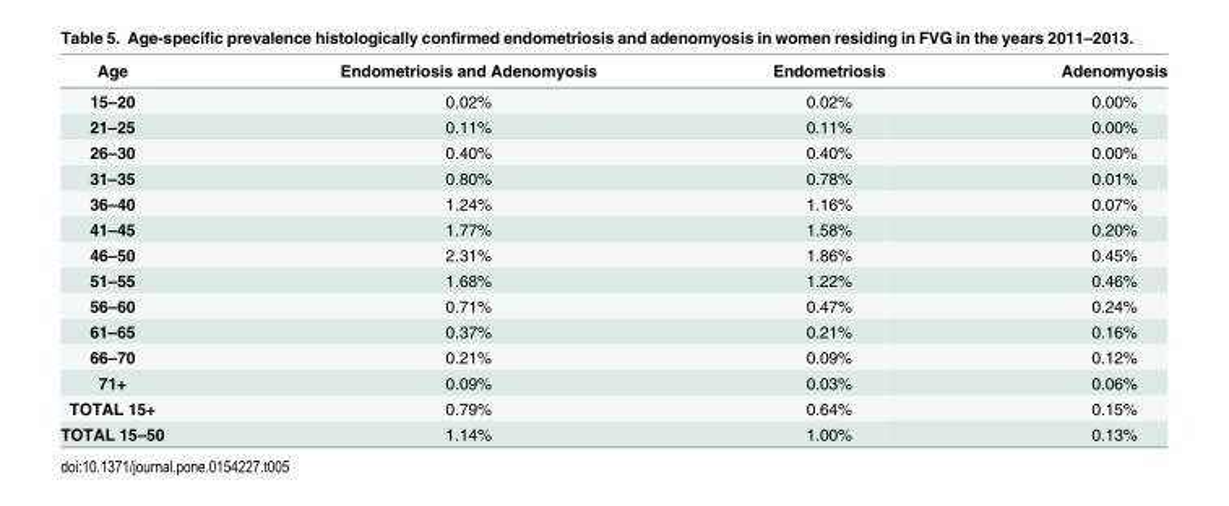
<table><thead><tr><td>Age</td><td>Endometriosis and Adenomyosis</td><td>Endometriosis</td><td>Adenomyosis</td></tr></thead><tbody><tr><td>15–20</td><td>0.02%</td><td>0.02%</td><td>0.00%</td></tr><tr><td>21–25</td><td>0.11%</td><td>0.11%</td><td>0.00%</td></tr><tr><td>26–30</td><td>0.40%</td><td>0.40%</td><td>0.00%</td></tr><tr><td>31–35</td><td>0.80%</td><td>0.78%</td><td>0.01%</td></tr><tr><td>36–40</td><td>1.24%</td><td>1.16%</td><td>0.07%</td></tr><tr><td>41–45</td><td>1.77%</td><td>1.58%</td><td>0.20%</td></tr><tr><td>46–50</td><td>2.31%</td><td>1.86%</td><td>0.45%</td></tr><tr><td>51–55</td><td>1.68%</td><td>1.22%</td><td>0.46%</td></tr><tr><td>56–60</td><td>0.71%</td><td>0.47%</td><td>0.24%</td></tr><tr><td>61–65</td><td>0.37%</td><td>0.21%</td><td>0.16%</td></tr><tr><td>66–70</td><td>0.21%</td><td>0.09%</td><td>0.12%</td></tr><tr><td>71+</td><td>0.09%</td><td>0.03%</td><td>0.06%</td></tr><tr><td>TOTAL 15+</td><td>0.79%</td><td>0.64%</td><td>0.15%</td></tr><tr><td>TOTAL 15–50</td><td>1.14%</td><td>1.00%</td><td>0.13%</td></tr></tbody></table>